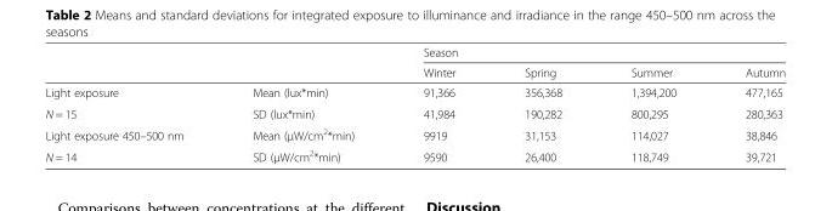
<table><thead><tr><td rowspan="2"></td><td rowspan="2"></td><td colspan="4">Season</td></tr><tr><td>Winter</td><td>Spring</td><td>Summer</td><td>Autumn</td></tr></thead><tbody><tr><td>Light exposure</td><td>Mean (lux*min)</td><td>91,366</td><td>356,368</td><td>1,394,200</td><td>477,165</td></tr><tr><td>N = 15</td><td>SD (lux*min)</td><td>41,984</td><td>190,282</td><td>800,295</td><td>280,363</td></tr><tr><td>Light exposure 450–500 nm</td><td>Mean (μW/cm<sup>2</sup>*min)</td><td>9919</td><td>31,153</td><td>114,027</td><td>38,846</td></tr><tr><td>N = 14</td><td>SD (μW/cm<sup>2</sup>*min)</td><td>9590</td><td>26,400</td><td>118,749</td><td>39,721</td></tr></tbody></table>